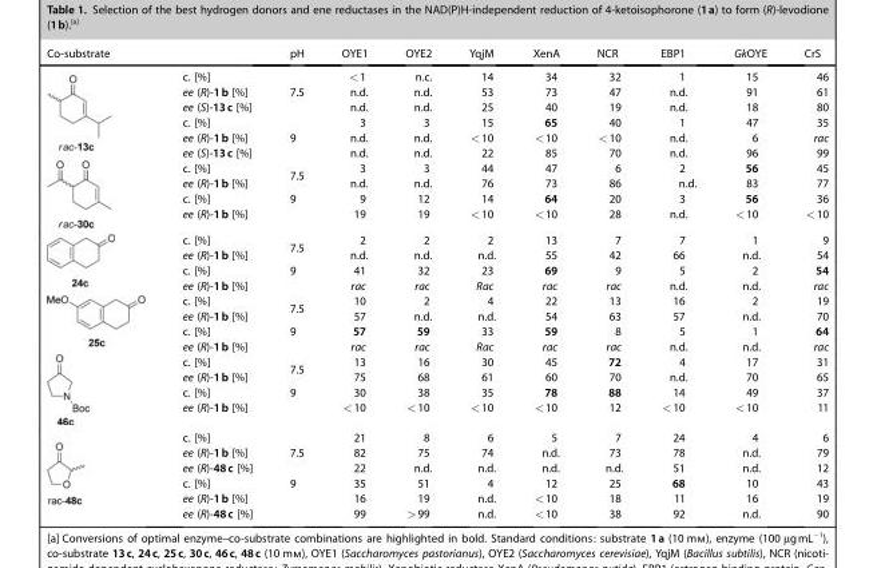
<table><thead><tr><td>Co-substrate</td><td></td><td>pH</td><td>OYE1</td><td>OYE2</td><td>YqjM</td><td>XenA</td><td>NCR</td><td>EBP1</td><td>GkOYE</td><td>CrS</td></tr></thead><tbody><tr><td rowspan="6"></td><td>c. [%]</td><td rowspan="3">7.5</td><td>&lt;1</td><td>n.c.</td><td>14</td><td>34</td><td>32</td><td>1</td><td>15</td><td>46</td></tr><tr><td>ee (R)-1b [%]</td><td>n.d.</td><td>n.d.</td><td>53</td><td>73</td><td>47</td><td>n.d.</td><td>91</td><td>61</td></tr><tr><td>ee (S)-13c [%]</td><td>n.d.</td><td>n.d.</td><td>25</td><td>40</td><td>19</td><td>n.d.</td><td>18</td><td>80</td></tr><tr><td>c. [%]</td><td rowspan="3">9</td><td>3</td><td>3</td><td>15</td><td>65</td><td>40</td><td>1</td><td>47</td><td>35</td></tr><tr><td>ee (R)-1b [%]</td><td>n.d.</td><td>n.d.</td><td>&lt;10</td><td>&lt;10</td><td>&lt;10</td><td>n.d.</td><td>6</td><td>rac</td></tr><tr><td>ee (S)-13c [%]</td><td>n.d.</td><td>n.d.</td><td>22</td><td>85</td><td>70</td><td>n.d.</td><td>96</td><td>99</td></tr><tr><td rowspan="4"></td><td>c. [%]</td><td rowspan="2">7.5</td><td>3</td><td>3</td><td>44</td><td>47</td><td>6</td><td>2</td><td>56</td><td>45</td></tr><tr><td>ee (R)-1b [%]</td><td>n.d.</td><td>n.d.</td><td>76</td><td>73</td><td>86</td><td>n.d.</td><td>83</td><td>77</td></tr><tr><td>c. [%]</td><td rowspan="2">9</td><td>9</td><td>12</td><td>14</td><td>64</td><td>20</td><td>3</td><td>56</td><td>36</td></tr><tr><td>ee (R)-1b [%]</td><td>19</td><td>19</td><td>&lt;10</td><td>&lt;10</td><td>28</td><td>n.d.</td><td>&lt;10</td><td>&lt;10</td></tr><tr><td rowspan="4"></td><td>c. [%]</td><td rowspan="2">7.5</td><td>2</td><td>2</td><td>2</td><td>13</td><td>7</td><td>7</td><td>1</td><td>9</td></tr><tr><td>ee (R)-1b [%]</td><td>n.d.</td><td>n.d.</td><td>n.d.</td><td>55</td><td>42</td><td>66</td><td>n.d.</td><td>54</td></tr><tr><td>c. [%]</td><td rowspan="2">9</td><td>41</td><td>32</td><td>23</td><td>69</td><td>9</td><td>5</td><td>2</td><td>54</td></tr><tr><td>ee (R)-1b [%]</td><td>rac</td><td>rac</td><td>Rac</td><td>rac</td><td>rac</td><td>n.d.</td><td>n.d.</td><td>rac</td></tr><tr><td rowspan="4"></td><td>c. [%]</td><td rowspan="2">7.5</td><td>10</td><td>2</td><td>4</td><td>22</td><td>13</td><td>16</td><td>2</td><td>19</td></tr><tr><td>ee (R)-1b [%]</td><td>57</td><td>n.d.</td><td>n.d.</td><td>54</td><td>63</td><td>57</td><td>n.d.</td><td>70</td></tr><tr><td>c. [%]</td><td rowspan="2">9</td><td>57</td><td>59</td><td>33</td><td>59</td><td>8</td><td>5</td><td>1</td><td>64</td></tr><tr><td>ee (R)-1b [%]</td><td>rac</td><td>rac</td><td>Rac</td><td>rac</td><td>rac</td><td>n.d.</td><td>n.d.</td><td>rac</td></tr><tr><td rowspan="4"></td><td>c. [%]</td><td rowspan="2">7.5</td><td>13</td><td>16</td><td>30</td><td>45</td><td>72</td><td>4</td><td>17</td><td>31</td></tr><tr><td>ee (R)-1b [%]</td><td>75</td><td>68</td><td>61</td><td>60</td><td>70</td><td>n.d.</td><td>70</td><td>65</td></tr><tr><td>c. [%]</td><td rowspan="2">9</td><td>30</td><td>38</td><td>35</td><td>78</td><td>88</td><td>14</td><td>49</td><td>37</td></tr><tr><td>ee (R)-1b [%]</td><td>&lt;10</td><td>&lt;10</td><td>&lt;10</td><td>&lt;10</td><td>12</td><td>&lt;10</td><td>&lt;10</td><td>11</td></tr><tr><td rowspan="6"></td><td>c. [%]</td><td rowspan="3">7.5</td><td>21</td><td>8</td><td>6</td><td>5</td><td>7</td><td>24</td><td>4</td><td>6</td></tr><tr><td>ee (R)-1b [%]</td><td>82</td><td>75</td><td>74</td><td>n.d.</td><td>73</td><td>78</td><td>n.d.</td><td>79</td></tr><tr><td>ee (R)-48c [%]</td><td>22</td><td>n.d.</td><td>n.d.</td><td>n.d.</td><td>n.d.</td><td>51</td><td>n.d.</td><td>12</td></tr><tr><td>c. [%]</td><td rowspan="3">9</td><td>35</td><td>51</td><td>4</td><td>12</td><td>25</td><td>68</td><td>10</td><td>43</td></tr><tr><td>ee (R)-1b [%]</td><td>16</td><td>19</td><td>n.d.</td><td>&lt;10</td><td>18</td><td>11</td><td>16</td><td>19</td></tr><tr><td>ee (R)-48c [%]</td><td>99</td><td>&gt;99</td><td>n.d.</td><td>&lt;10</td><td>38</td><td>92</td><td>n.d.</td><td>90</td></tr></tbody></table>